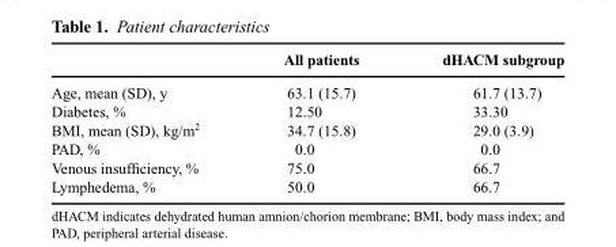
<table><thead><tr><td></td><td>All patients</td><td>dHACM subgroup</td></tr></thead><tbody><tr><td>Age, mean (SD), y</td><td>63.1 (15.7)</td><td>61.7 (13.7)</td></tr><tr><td>Diabetes, %</td><td>12.50</td><td>33.30</td></tr><tr><td>BMI, mean (SD), kg/m<sup>2</sup></td><td>34.7 (15.8)</td><td>29.0 (3.9)</td></tr><tr><td>PAD, %</td><td>0.0</td><td>0.0</td></tr><tr><td>Venous insufficiency, %</td><td>75.0</td><td>66.7</td></tr><tr><td>Lymphedema, %</td><td>50.0</td><td>66.7</td></tr></tbody></table>